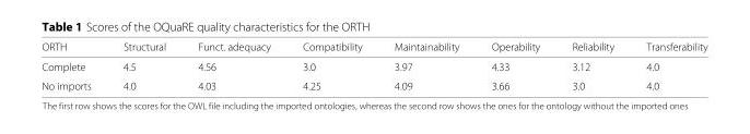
<table><thead><tr><td>ORTH</td><td>Structural</td><td>Funct. adequacy</td><td>Compatibility</td><td>Maintainability</td><td>Operability</td><td>Reliability</td><td>Transferability</td></tr></thead><tbody><tr><td>Complete</td><td>4.5</td><td>4.56</td><td>3.0</td><td>3.97</td><td>4.33</td><td>3.12</td><td>4.0</td></tr><tr><td>No imports</td><td>4.0</td><td>4.03</td><td>4.25</td><td>4.09</td><td>3.66</td><td>3.0</td><td>4.0</td></tr></tbody></table>